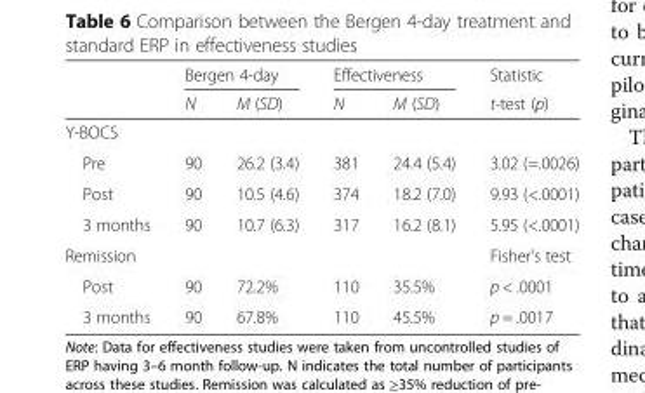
<table><thead><tr><td rowspan="2"></td><td colspan="2">Bergen 4-day</td><td colspan="2">Effectiveness</td><td rowspan="2">Statistic t-test (p)</td></tr><tr><td>N</td><td>M (SD)</td><td>N</td><td>M (SD)</td></tr></thead><tbody><tr><td colspan="6">Y-BOCS</td></tr><tr><td>Pre</td><td>90</td><td>26.2 (3.4)</td><td>381</td><td>24.4 (5.4)</td><td>3.02 (=.0026)</td></tr><tr><td>Post</td><td>90</td><td>10.5 (4.6)</td><td>374</td><td>18.2 (7.0)</td><td>9.93 (&lt;.0001)</td></tr><tr><td>3 months</td><td>90</td><td>10.7 (6.3)</td><td>317</td><td>16.2 (8.1)</td><td>5.95 (&lt;.0001)</td></tr><tr><td colspan="5">Remission</td><td>Fisher’s test</td></tr><tr><td>Post</td><td>90</td><td>72.2%</td><td>110</td><td>35.5%</td><td>p &lt; .0001</td></tr><tr><td>3 months</td><td>90</td><td>67.8%</td><td>110</td><td>45.5%</td><td>p = .0017</td></tr></tbody></table>